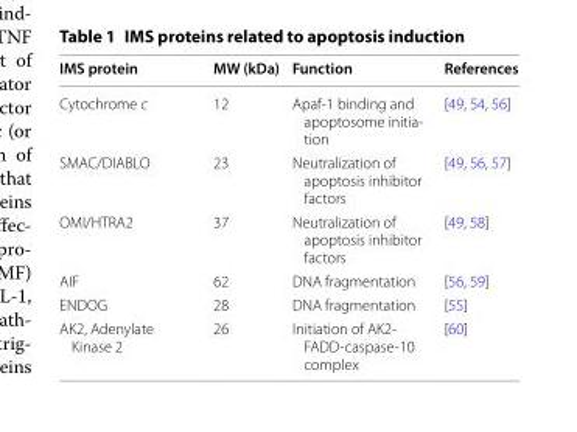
<table><thead><tr><td>IMS protein</td><td>MW (kDa)</td><td>Function</td><td>References</td></tr></thead><tbody><tr><td>Cytochrome c</td><td>12</td><td>Apaf‑1 binding and apoptosome initia‑ tion</td><td>[49, 54, 56]</td></tr><tr><td>SMAC/DIABLO</td><td>23</td><td>Neutralization of apoptosis inhibitor factors</td><td>[49, 56, 57]</td></tr><tr><td>OMI/HTRA2</td><td>37</td><td>Neutralization of apoptosis inhibitor factors</td><td>[49, 58]</td></tr><tr><td>AIF</td><td>62</td><td>DNA fragmentation</td><td>[56, 59]</td></tr><tr><td>ENDOG</td><td>28</td><td>DNA fragmentation</td><td>[55]</td></tr><tr><td>AK2, Adenylate Kinase 2</td><td>26</td><td>Initiation of AK2‑ FADD‑caspase‑10 complex</td><td>[60]</td></tr></tbody></table>